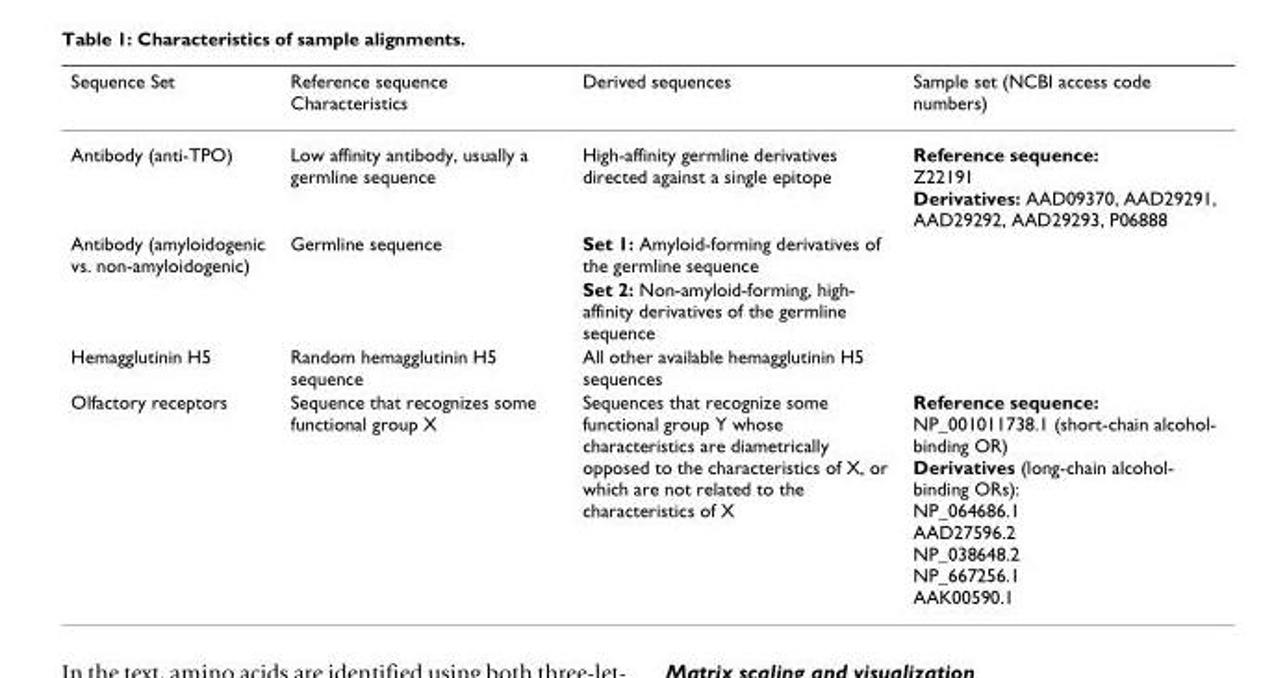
<table><thead><tr><td>Sequence Set</td><td>Reference sequence Characteristics</td><td>Derived sequences</td><td>Sample set (NCBI access code numbers)</td></tr></thead><tbody><tr><td>Antibody (anti-TPO)</td><td>Low affinity antibody, usually a germline sequence</td><td>High-affinity germline derivatives directed against a single epitope</td><td>Reference sequence: Z22191 Derivatives: AAD09370, AAD29291, AAD29292, AAD29293, P06888</td></tr><tr><td rowspan="2">Antibody (amyloidogenic vs. non-amyloidogenic)</td><td>Germline sequence</td><td>Set 1: Amyloid-forming derivatives of the germline sequence</td><td></td></tr><tr><td></td><td>Set 2: Non-amyloid-forming, high- affinity derivatives of the germline sequence</td><td></td></tr><tr><td>Hemagglutinin H5</td><td>Random hemagglutinin H5 sequence</td><td>All other available hemagglutinin H5 sequences</td><td></td></tr><tr><td>Olfactory receptors</td><td>Sequence that recognizes some functional group X</td><td>Sequences that recognize some functional group Y whose characteristics are diametrically opposed to the characteristics of X, or which are not related to the characteristics of X</td><td>Reference sequence: NP_001011738.1 (short-chain alcohol- binding OR) Derivatives (long-chain alcohol- binding ORs): NP_064686.1 AAD27596.2 NP_038648.2 NP_667256.1 AAK00590.1</td></tr></tbody></table>